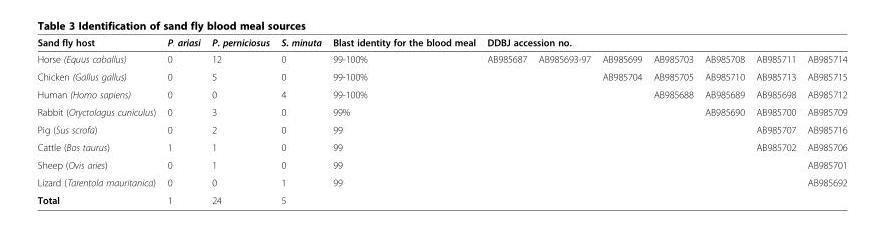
<table><thead><tr><td rowspan="2">Sand fly host Horse (Equus caballus)</td><td rowspan="2">P. ariasi 0</td><td rowspan="2">P. perniciosus 12</td><td rowspan="2">S. minuta 0</td><td rowspan="2">Blast identity for the blood meal 99-100%</td><td colspan="7">DDBJ accession no.</td></tr><tr><td>AB985687</td><td>AB985693-97</td><td>AB985699</td><td>AB985703</td><td>AB985708</td><td>AB985711</td><td>AB985714</td></tr></thead><tbody><tr><td>Chicken (Gallus gallus)</td><td>0</td><td>5</td><td>0</td><td>99-100%</td><td></td><td></td><td>AB985704</td><td>AB985705</td><td>AB985710</td><td>AB985713</td><td>AB985715</td></tr><tr><td>Human (Homo sapiens)</td><td>0</td><td>0</td><td>4</td><td>99-100%</td><td></td><td></td><td></td><td>AB985688</td><td>AB985689</td><td>AB985698</td><td>AB985712</td></tr><tr><td>Rabbit (Oryctolagus cuniculus)</td><td>0</td><td>3</td><td>0</td><td>99%</td><td></td><td></td><td></td><td></td><td>AB985690</td><td>AB985700</td><td>AB985709</td></tr><tr><td>Pig (Sus scrofa)</td><td>0</td><td>2</td><td>0</td><td>99</td><td></td><td></td><td></td><td></td><td></td><td>AB985707</td><td>AB985716</td></tr><tr><td>Cattle (Bos taurus)</td><td>1</td><td>1</td><td>0</td><td>99</td><td></td><td></td><td></td><td></td><td></td><td>AB985702</td><td>AB985706</td></tr><tr><td>Sheep (Ovis aries)</td><td>0</td><td>1</td><td>0</td><td>99</td><td></td><td></td><td></td><td></td><td></td><td></td><td>AB985701</td></tr><tr><td>Lizard (Tarentola mauritanica)</td><td>0</td><td>0</td><td>1</td><td>99</td><td></td><td></td><td></td><td></td><td></td><td></td><td>AB985692</td></tr><tr><td>Total</td><td>1</td><td>24</td><td>5</td><td></td><td></td><td></td><td></td><td></td><td></td><td></td><td></td></tr></tbody></table>